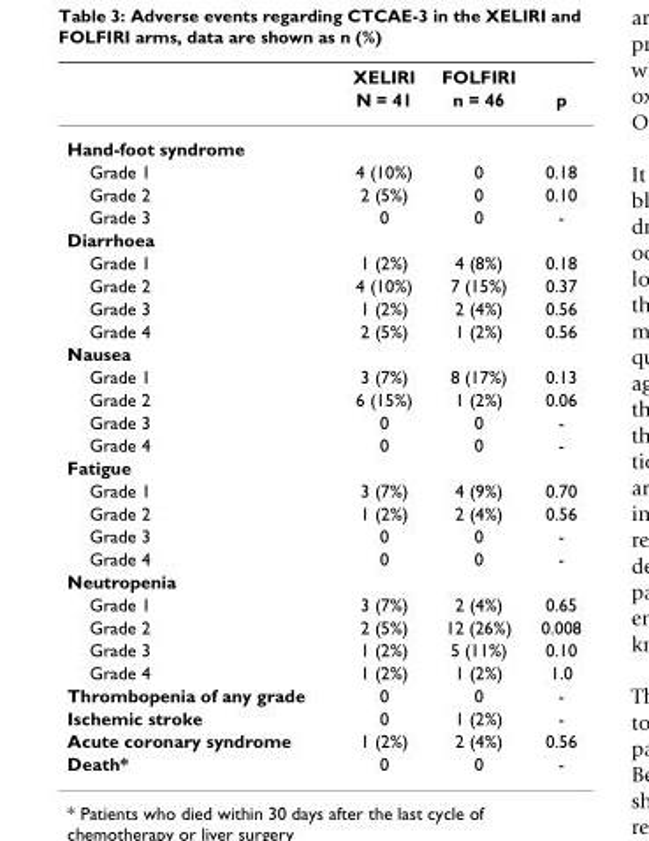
<table><thead><tr><td rowspan="2"></td><td rowspan="2">XELIRI N = 41</td><td rowspan="2">FOLFIRI n = 46</td><td rowspan="2">p</td></tr><tr></tr></thead><tbody><tr><td colspan="4">Hand-foot syndrome</td></tr><tr><td>Grade 1</td><td>4 (10%)</td><td>0</td><td>0.18</td></tr><tr><td>Grade 2</td><td>2 (5%)</td><td>0</td><td>0.10</td></tr><tr><td>Grade 3</td><td>0</td><td>0</td><td>-</td></tr><tr><td colspan="4">Diarrhoea</td></tr><tr><td>Grade 1</td><td>1 (2%)</td><td>4 (8%)</td><td>0.18</td></tr><tr><td>Grade 2</td><td>4 (10%)</td><td>7 (15%)</td><td>0.37</td></tr><tr><td>Grade 3</td><td>1 (2%)</td><td>2 (4%)</td><td>0.56</td></tr><tr><td>Grade 4</td><td>2 (5%)</td><td>1 (2%)</td><td>0.56</td></tr><tr><td colspan="4">Nausea</td></tr><tr><td>Grade 1</td><td>3 (7%)</td><td>8 (17%)</td><td>0.13</td></tr><tr><td>Grade 2</td><td>6 (15%)</td><td>1 (2%)</td><td>0.06</td></tr><tr><td>Grade 3</td><td>0</td><td>0</td><td>-</td></tr><tr><td>Grade 4</td><td>0</td><td>0</td><td>-</td></tr><tr><td colspan="4">Fatigue</td></tr><tr><td>Grade 1</td><td>3 (7%)</td><td>4 (9%)</td><td>0.70</td></tr><tr><td>Grade 2</td><td>1 (2%)</td><td>2 (4%)</td><td>0.56</td></tr><tr><td>Grade 3</td><td>0</td><td>0</td><td>-</td></tr><tr><td>Grade 4</td><td>0</td><td>0</td><td>-</td></tr><tr><td colspan="4">Neutropenia</td></tr><tr><td>Grade 1</td><td>3 (7%)</td><td>2 (4%)</td><td>0.65</td></tr><tr><td>Grade 2</td><td>2 (5%)</td><td>12 (26%)</td><td>0.008</td></tr><tr><td>Grade 3</td><td>1 (2%)</td><td>5 (11%)</td><td>0.10</td></tr><tr><td>Grade 4</td><td>1 (2%)</td><td>1 (2%)</td><td>1.0</td></tr><tr><td>Thrombopenia of any grade</td><td>0</td><td>0</td><td>-</td></tr><tr><td>Ischemic stroke</td><td>0</td><td>1 (2%)</td><td>-</td></tr><tr><td>Acute coronary syndrome</td><td>1 (2%)</td><td>2 (4%)</td><td>0.56</td></tr><tr><td>Death*</td><td>0</td><td>0</td><td>-</td></tr></tbody></table>